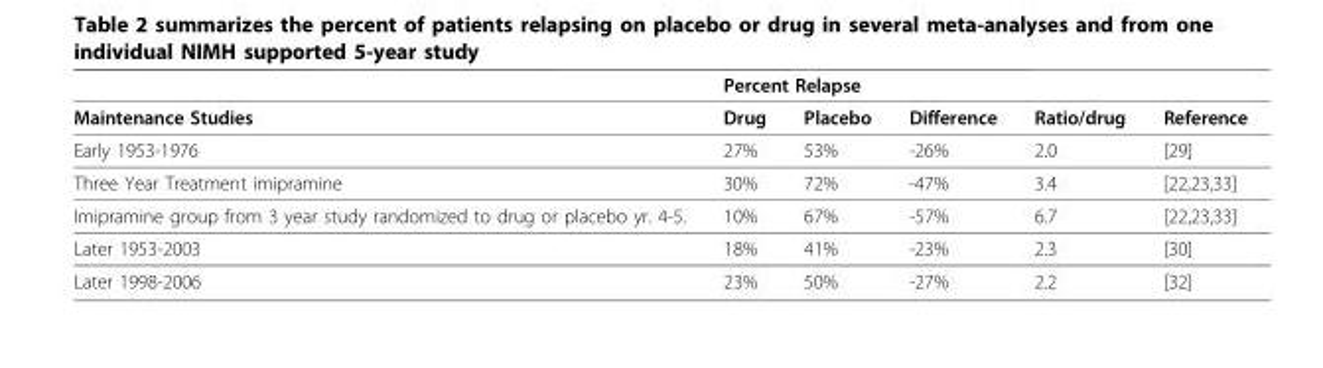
<table><thead><tr><td rowspan="2">Maintenance Studies</td><td colspan="4">Percent Relapse</td><td rowspan="2">Reference</td></tr><tr><td>Drug</td><td>Placebo</td><td>Difference</td><td>Ratio/drug</td></tr></thead><tbody><tr><td>Early 1953-1976</td><td>27%</td><td>53%</td><td>-26%</td><td>2.0</td><td>[29]</td></tr><tr><td>Three Year Treatment imipramine</td><td>30%</td><td>72%</td><td>-47%</td><td>3.4</td><td>[22,23,33]</td></tr><tr><td>Imipramine group from 3 year study randomized to drug or placebo yr. 4-5.</td><td>10%</td><td>67%</td><td>-57%</td><td>6.7</td><td>[22,23,33]</td></tr><tr><td>Later 1953-2003</td><td>18%</td><td>41%</td><td>-23%</td><td>2.3</td><td>[30]</td></tr><tr><td>Later 1998-2006</td><td>23%</td><td>50%</td><td>-27%</td><td>2.2</td><td>[32]</td></tr></tbody></table>